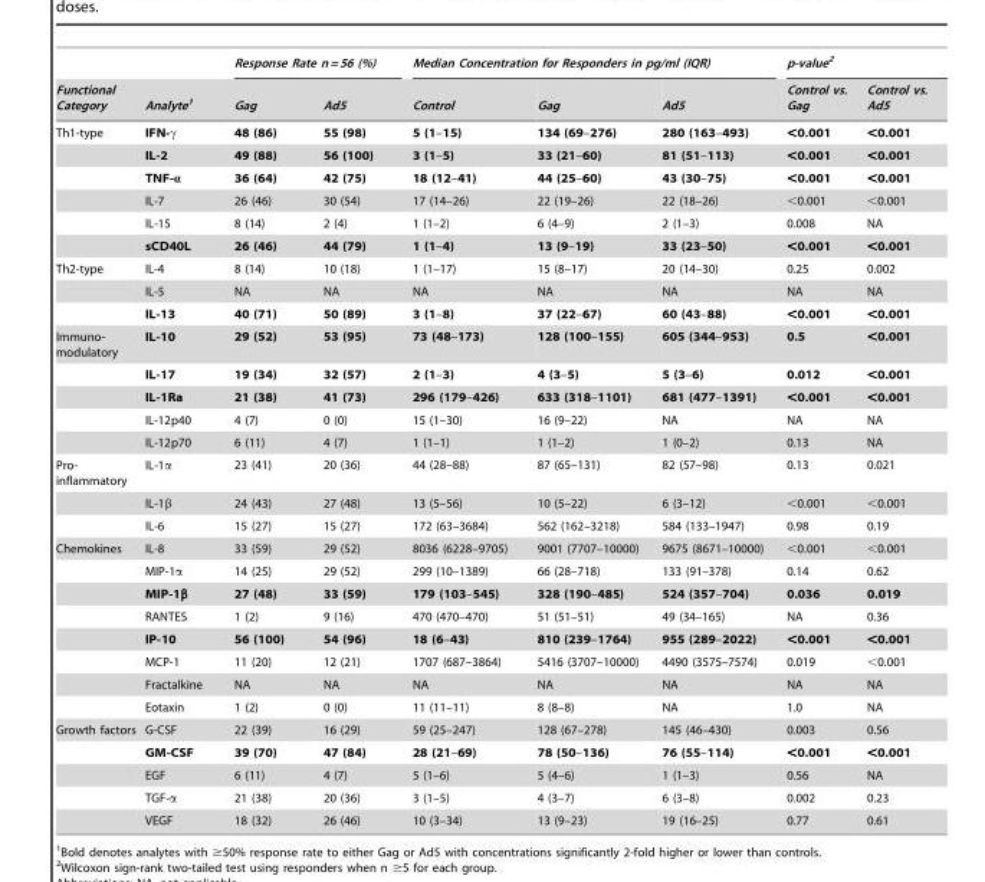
<table><thead><tr><td rowspan="2">Functional Category</td><td rowspan="2">Analyte<sup>1</sup></td><td colspan="2">Response Rate n = 56 (%)</td><td colspan="3">Median Concentration for Responders in pg/ml (IQR)</td><td colspan="2">p-value<sup>2</sup></td></tr><tr><td>Gag</td><td>Ad5</td><td>Control</td><td>Gag</td><td>Ad5</td><td>Control vs. Gag</td><td>Control vs. Ad5</td></tr></thead><tbody><tr><td rowspan="6">Th1-type</td><td>IFN-γ</td><td>48 (86)</td><td>55 (98)</td><td>5 (1–15)</td><td>134 (69–276)</td><td>280 (163–493)</td><td>&lt;0.001</td><td>&lt;0.001</td></tr><tr><td>IL-2</td><td>49 (88)</td><td>56 (100)</td><td>3 (1–5)</td><td>33 (21–60)</td><td>81 (51–113)</td><td>&lt;0.001</td><td>&lt;0.001</td></tr><tr><td>TNF-α</td><td>36 (64)</td><td>42 (75)</td><td>18 (12–41)</td><td>44 (25–60)</td><td>43 (30–75)</td><td>&lt;0.001</td><td>&lt;0.001</td></tr><tr><td>IL-7</td><td>26 (46)</td><td>30 (54)</td><td>17 (14–26)</td><td>22 (19–26)</td><td>22 (18–26)</td><td>&lt;0.001</td><td>&lt;0.001</td></tr><tr><td>IL-15</td><td>8 (14)</td><td>2 (4)</td><td>1 (1–2)</td><td>6 (4–9)</td><td>2 (1–3)</td><td>0.008</td><td>NA</td></tr><tr><td>sCD40L</td><td>26 (46)</td><td>44 (79)</td><td>1 (1–4)</td><td>13 (9–19)</td><td>33 (23–50)</td><td>&lt;0.001</td><td>&lt;0.001</td></tr><tr><td rowspan="3">Th2-type</td><td>IL-4</td><td>8 (14)</td><td>10 (18)</td><td>1 (1–17)</td><td>15 (8–17)</td><td>20 (14–30)</td><td>0.25</td><td>0.002</td></tr><tr><td>IL-5</td><td>NA</td><td>NA</td><td>NA</td><td>NA</td><td>NA</td><td>NA</td><td>NA</td></tr><tr><td>IL-13</td><td>40 (71)</td><td>50 (89)</td><td>3 (1–8)</td><td>37 (22–67)</td><td>60 (43–88)</td><td>&lt;0.001</td><td>&lt;0.001</td></tr><tr><td rowspan="5">Immuno- modulatory</td><td>IL-10</td><td>29 (52)</td><td>53 (95)</td><td>73 (48–173)</td><td>128 (100–155)</td><td>605 (344–953)</td><td>0.5</td><td>&lt;0.001</td></tr><tr><td>IL-17</td><td>19 (34)</td><td>32 (57)</td><td>2 (1–3)</td><td>4 (3–5)</td><td>5 (3–6)</td><td>0.012</td><td>&lt;0.001</td></tr><tr><td>IL-1Ra</td><td>21 (38)</td><td>41 (73)</td><td>296 (179–426)</td><td>633 (318–1101)</td><td>681 (477–1391)</td><td>&lt;0.001</td><td>&lt;0.001</td></tr><tr><td>IL-12p40</td><td>4 (7)</td><td>0 (0)</td><td>15 (1–30)</td><td>16 (9–22)</td><td>NA</td><td>NA</td><td>NA</td></tr><tr><td>IL-12p70</td><td>6 (11)</td><td>4 (7)</td><td>1 (1–1)</td><td>1 (1–2)</td><td>1 (0–2)</td><td>0.13</td><td>NA</td></tr><tr><td rowspan="3">Pro- inflammatory</td><td>IL-1α</td><td>23 (41)</td><td>20 (36)</td><td>44 (28–88)</td><td>87 (65–131)</td><td>82 (57–98)</td><td>0.13</td><td>0.021</td></tr><tr><td>IL-1β</td><td>24 (43)</td><td>27 (48)</td><td>13 (5–56)</td><td>10 (5–22)</td><td>6 (3–12)</td><td>&lt;0.001</td><td>&lt;0.001</td></tr><tr><td>IL-6</td><td>15 (27)</td><td>15 (27)</td><td>172 (63–3684)</td><td>562 (162–3218)</td><td>584 (133–1947)</td><td>0.98</td><td>0.19</td></tr><tr><td rowspan="8">Chemokines</td><td>IL-8</td><td>33 (59)</td><td>29 (52)</td><td>8036 (6228–9705)</td><td>9001 (7707–10000)</td><td>9675 (8671–10000)</td><td>&lt;0.001</td><td>&lt;0.001</td></tr><tr><td>MIP-1α</td><td>14 (25)</td><td>29 (52)</td><td>299 (10–1389)</td><td>66 (28–718)</td><td>133 (91–378)</td><td>0.14</td><td>0.62</td></tr><tr><td>MIP-1β</td><td>27 (48)</td><td>33 (59)</td><td>179 (103–545)</td><td>328 (190–485)</td><td>524 (357–704)</td><td>0.036</td><td>0.019</td></tr><tr><td>RANTES</td><td>1 (2)</td><td>9 (16)</td><td>470 (470–470)</td><td>51 (51–51)</td><td>49 (34–165)</td><td>NA</td><td>0.36</td></tr><tr><td>IP-10</td><td>56 (100)</td><td>54 (96)</td><td>18 (6–43)</td><td>810 (239–1764)</td><td>955 (289–2022)</td><td>&lt;0.001</td><td>&lt;0.001</td></tr><tr><td>MCP-1</td><td>11 (20)</td><td>12 (21)</td><td>1707 (687–3864)</td><td>5416 (3707–10000)</td><td>4490 (3575–7574)</td><td>0.019</td><td>&lt;0.001</td></tr><tr><td>Fractalkine</td><td>NA</td><td>NA</td><td>NA</td><td>NA</td><td>NA</td><td>NA</td><td>NA</td></tr><tr><td>Eotaxin</td><td>1 (2)</td><td>0 (0)</td><td>11 (11–11)</td><td>8 (8–8)</td><td>NA</td><td>1.0</td><td>NA</td></tr><tr><td rowspan="5">Growth factors</td><td>G-CSF</td><td>22 (39)</td><td>16 (29)</td><td>59 (25–247)</td><td>128 (67–278)</td><td>145 (46–430)</td><td>0.003</td><td>0.56</td></tr><tr><td>GM-CSF</td><td>39 (70)</td><td>47 (84)</td><td>28 (21–69)</td><td>78 (50–136)</td><td>76 (55–114)</td><td>&lt;0.001</td><td>&lt;0.001</td></tr><tr><td>EGF</td><td>6 (11)</td><td>4 (7)</td><td>5 (1–6)</td><td>5 (4–6)</td><td>1 (1–3)</td><td>0.56</td><td>NA</td></tr><tr><td>TGF-α</td><td>21 (38)</td><td>20 (36)</td><td>3 (1–5)</td><td>4 (3–7)</td><td>6 (3–8)</td><td>0.002</td><td>0.23</td></tr><tr><td>VEGF</td><td>18 (32)</td><td>26 (46)</td><td>10 (3–34)</td><td>13 (9–23)</td><td>19 (16–25)</td><td>0.77</td><td>0.61</td></tr></tbody></table>